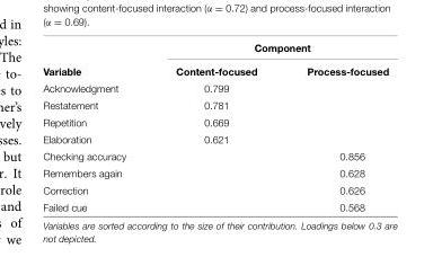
<table><thead><tr><td rowspan="2">Variable</td><td colspan="2">Component</td></tr><tr><td>Content-focused</td><td>Process-focused</td></tr></thead><tbody><tr><td>Acknowledgment</td><td>0.799</td><td></td></tr><tr><td>Restatement</td><td>0.781</td><td></td></tr><tr><td>Repetition</td><td>0.669</td><td></td></tr><tr><td>Elaboration</td><td>0.621</td><td></td></tr><tr><td>Checking accuracy</td><td></td><td>0.856</td></tr><tr><td>Remembers again</td><td></td><td>0.628</td></tr><tr><td>Correction</td><td></td><td>0.626</td></tr><tr><td>Failed cue</td><td></td><td>0.568</td></tr></tbody></table>